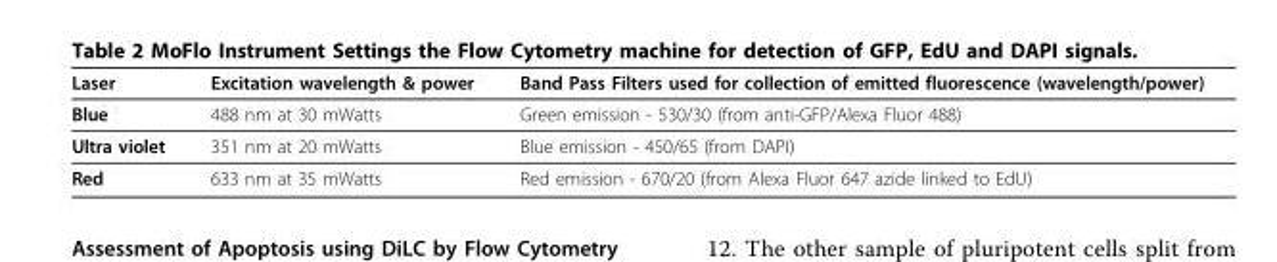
<table><thead><tr><td>Laser</td><td>Excitation wavelength &amp; power</td><td>Band Pass Filters used for collection of emitted fluorescence (wavelength/power)</td></tr></thead><tbody><tr><td>Blue</td><td>488 nm at 30 mWatts</td><td>Green emission - 530/30 (from anti-GFP/Alexa Fluor 488)</td></tr><tr><td>Ultra violet</td><td>351 nm at 20 mWatts</td><td>Blue emission - 450/65 (from DAPI)</td></tr><tr><td>Red</td><td>633 nm at 35 mWatts</td><td>Red emission - 670/20 (from Alexa Fluor 647 azide linked to EdU)</td></tr></tbody></table>